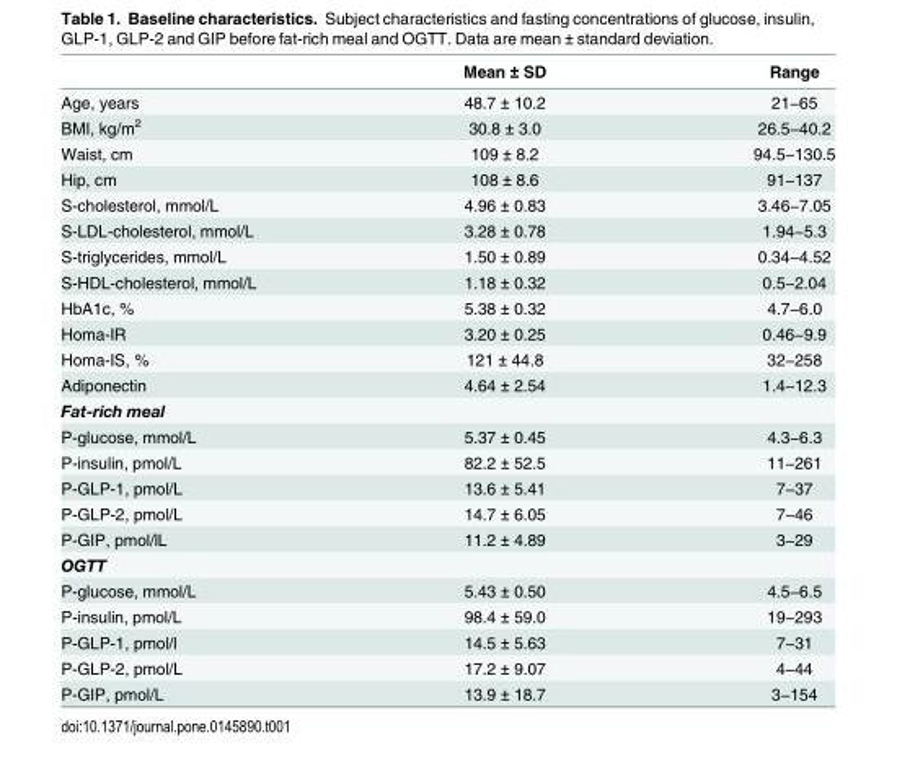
<table><thead><tr><td></td><td>Mean ± SD</td><td>Range</td></tr></thead><tbody><tr><td>Age, years</td><td>48.7 ± 10.2</td><td>21−65</td></tr><tr><td>BMI, kg/m<sup>2</sup></td><td>30.8 ± 3.0</td><td>26.5−40.2</td></tr><tr><td>Waist, cm</td><td>109 ± 8.2</td><td>94.5−130.5</td></tr><tr><td>Hip, cm</td><td>108 ± 8.6</td><td>91−137</td></tr><tr><td>S-cholesterol, mmol/L</td><td>4.96 ± 0.83</td><td>3.46−7.05</td></tr><tr><td>S-LDL-cholesterol, mmol/L</td><td>3.28 ± 0.78</td><td>1.94−5.3</td></tr><tr><td>S-triglycerides, mmol/L</td><td>1.50 ± 0.89</td><td>0.34−4.52</td></tr><tr><td>S-HDL-cholesterol, mmol/L</td><td>1.18 ± 0.32</td><td>0.5−2.04</td></tr><tr><td>HbA1c, %</td><td>5.38 ± 0.32</td><td>4.7−6.0</td></tr><tr><td>Homa-IR</td><td>3.20 ± 0.25</td><td>0.46−9.9</td></tr><tr><td>Homa-IS, %</td><td>121 ± 44.8</td><td>32−258</td></tr><tr><td>Adiponectin</td><td>4.64 ± 2.54</td><td>1.4−12.3</td></tr><tr><td colspan="3">Fat-rich meal</td></tr><tr><td>P-glucose, mmol/L</td><td>5.37 ± 0.45</td><td>4.3−6.3</td></tr><tr><td>P-insulin, pmol/L</td><td>82.2 ± 52.5</td><td>11−261</td></tr><tr><td>P-GLP-1, pmol/L</td><td>13.6 ± 5.41</td><td>7−37</td></tr><tr><td>P-GLP-2, pmol/L</td><td>14.7 ± 6.05</td><td>7−46</td></tr><tr><td>P-GIP, pmol/lL</td><td>11.2 ± 4.89</td><td>3−29</td></tr><tr><td colspan="3">OGTT</td></tr><tr><td>P-glucose, mmol/L</td><td>5.43 ± 0.50</td><td>4.5−6.5</td></tr><tr><td>P-insulin, pmol/L</td><td>98.4 ± 59.0</td><td>19−293</td></tr><tr><td>P-GLP-1, pmol/l</td><td>14.5 ± 5.63</td><td>7−31</td></tr><tr><td>P-GLP-2, pmol/L</td><td>17.2 ± 9.07</td><td>4−44</td></tr><tr><td>P-GIP, pmol/L</td><td>13.9 ± 18.7</td><td>3−154</td></tr></tbody></table>